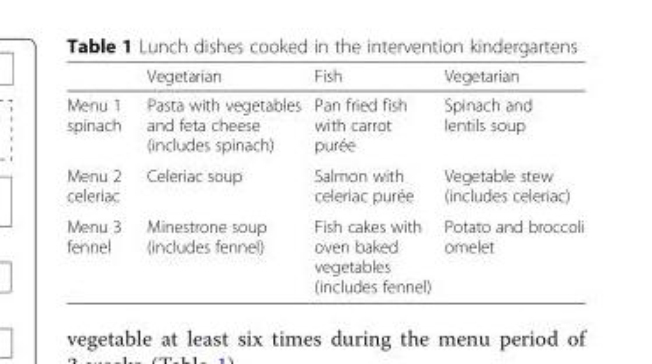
<table><thead><tr><td></td><td>Vegetarian</td><td>Fish</td><td>Vegetarian</td></tr></thead><tbody><tr><td>Menu 1 spinach</td><td>Pasta with vegetables and feta cheese (includes spinach)</td><td>Pan fried fish with carrot purée</td><td>Spinach and lentils soup</td></tr><tr><td>Menu 2 celeriac</td><td>Celeriac soup</td><td>Salmon with celeriac purée</td><td>Vegetable stew (includes celeriac)</td></tr><tr><td>Menu 3 fennel</td><td>Minestrone soup (includes fennel)</td><td>Fish cakes with oven baked vegetables (includes fennel)</td><td>Potato and broccoli omelet</td></tr></tbody></table>